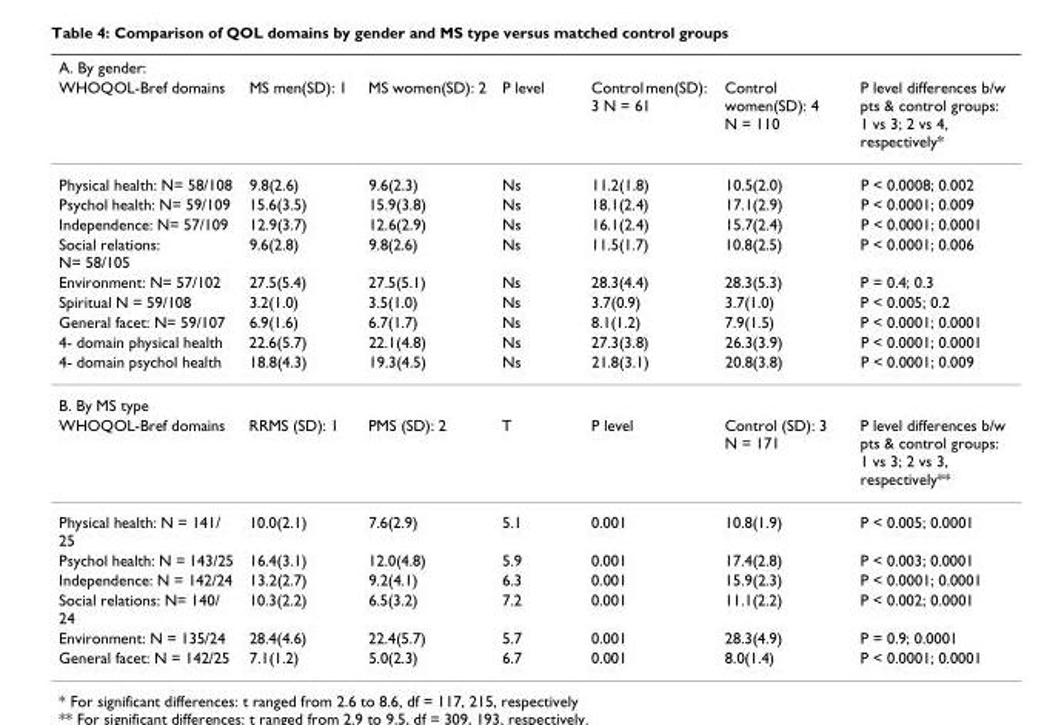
<table><thead><tr><td rowspan="2">A. By gender: WHOQOL-Bref domains</td><td rowspan="2">MS men(SD): 1</td><td rowspan="2">MS women(SD): 2</td><td rowspan="2">P level</td><td rowspan="2">Control men(SD): 3 N = 61</td><td rowspan="2">Control women(SD): 4 N = 110</td><td rowspan="2">P level differences b/w pts &amp; control groups: 1 vs 3; 2 vs 4, respectively*</td></tr><tr></tr></thead><tbody><tr><td>Physical health: N= 58/108</td><td>9.8(2.6)</td><td>9.6(2.3)</td><td>Ns</td><td>11.2(1.8)</td><td>10.5(2.0)</td><td>P &lt; 0.0008; 0.002</td></tr><tr><td>Psychol health: N= 59/109</td><td>15.6(3.5)</td><td>15.9(3.8)</td><td>Ns</td><td>18.1(2.4)</td><td>17.1(2.9)</td><td>P &lt; 0.0001; 0.009</td></tr><tr><td>Independence: N= 57/109</td><td>12.9(3.7)</td><td>12.6(2.9)</td><td>Ns</td><td>16.1(2.4)</td><td>15.7(2.4)</td><td>P &lt; 0.0001; 0.0001</td></tr><tr><td>Social relations: N= 58/105</td><td>9.6(2.8)</td><td>9.8(2.6)</td><td>Ns</td><td>11.5(1.7)</td><td>10.8(2.5)</td><td>P &lt; 0.0001; 0.006</td></tr><tr><td>Environment: N= 57/102</td><td>27.5(5.4)</td><td>27.5(5.1)</td><td>Ns</td><td>28.3(4.4)</td><td>28.3(5.3)</td><td>P = 0.4; 0.3</td></tr><tr><td>Spiritual N = 59/108</td><td>3.2(1.0)</td><td>3.5(1.0)</td><td>Ns</td><td>3.7(0.9)</td><td>3.7(1.0)</td><td>P &lt; 0.005; 0.2</td></tr><tr><td>General facet: N= 59/107</td><td>6.9(1.6)</td><td>6.7(1.7)</td><td>Ns</td><td>8.1(1.2)</td><td>7.9(1.5)</td><td>P &lt; 0.0001; 0.0001</td></tr><tr><td>4- domain physical health</td><td>22.6(5.7)</td><td>22.1(4.8)</td><td>Ns</td><td>27.3(3.8)</td><td>26.3(3.9)</td><td>P &lt; 0.0001; 0.0001</td></tr><tr><td>4- domain psychol health</td><td>18.8(4.3)</td><td>19.3(4.5)</td><td>Ns</td><td>21.8(3.1)</td><td>20.8(3.8)</td><td>P &lt; 0.0001; 0.009</td></tr><tr><td colspan="7">B. By MS type</td></tr><tr><td>WHOQOL-Bref domains</td><td>RRMS (SD): 1</td><td>PMS (SD): 2</td><td>T</td><td>P level</td><td>Control (SD): 3 N = 171</td><td>P level differences b/w pts &amp; control groups: 1 vs 3; 2 vs 3, respectively**</td></tr><tr><td>Physical health: N = 141/ 25</td><td>10.0(2.1)</td><td>7.6(2.9)</td><td>5.1</td><td>0.001</td><td>10.8(1.9)</td><td>P &lt; 0.005; 0.0001</td></tr><tr><td>Psychol health: N = 143/25</td><td>16.4(3.1)</td><td>12.0(4.8)</td><td>5.9</td><td>0.001</td><td>17.4(2.8)</td><td>P &lt; 0.003; 0.0001</td></tr><tr><td>Independence: N = 142/24</td><td>13.2(2.7)</td><td>9.2(4.1)</td><td>6.3</td><td>0.001</td><td>15.9(2.3)</td><td>P &lt; 0.0001; 0.0001</td></tr><tr><td>Social relations: N= 140/ 24</td><td>10.3(2.2)</td><td>6.5(3.2)</td><td>7.2</td><td>0.001</td><td>11.1(2.2)</td><td>P &lt; 0.002; 0.0001</td></tr><tr><td>Environment: N = 135/24</td><td>28.4(4.6)</td><td>22.4(5.7)</td><td>5.7</td><td>0.001</td><td>28.3(4.9)</td><td>P = 0.9; 0.0001</td></tr><tr><td>General facet: N = 142/25</td><td>7.1(1.2)</td><td>5.0(2.3)</td><td>6.7</td><td>0.001</td><td>8.0(1.4)</td><td>P &lt; 0.0001; 0.0001</td></tr></tbody></table>